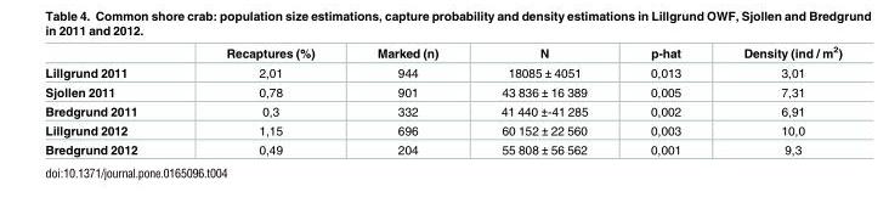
<table><thead><tr><td></td><td>Recaptures (%)</td><td>Marked (n)</td><td>N</td><td>p-hat</td><td>Density (ind / m<sup>2</sup>)</td></tr></thead><tbody><tr><td>Lillgrund 2011</td><td>2,01</td><td>944</td><td>18085 ± 4051</td><td>0,013</td><td>3,01</td></tr><tr><td>Sjollen 2011</td><td>0,78</td><td>901</td><td>43 836 ± 16 389</td><td>0,005</td><td>7,31</td></tr><tr><td>Bredgrund 2011</td><td>0,3</td><td>332</td><td>41 440 ±-41 285</td><td>0,002</td><td>6,91</td></tr><tr><td>Lillgrund 2012</td><td>1,15</td><td>696</td><td>60 152 ± 22 560</td><td>0,003</td><td>10,0</td></tr><tr><td>Bredgrund 2012</td><td>0,49</td><td>204</td><td>55 808 ± 56 562</td><td>0,001</td><td>9,3</td></tr></tbody></table>